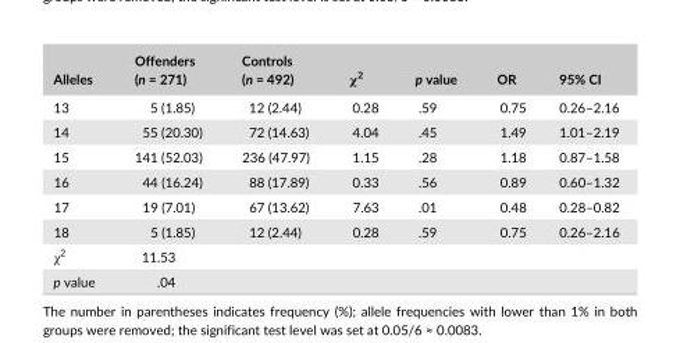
<table><thead><tr><td>Alleles</td><td>Offenders (n = 271)</td><td>Controls (n = 492)</td><td>χ<sup>2</sup></td><td>p value</td><td>OR</td><td>95% CI</td></tr></thead><tbody><tr><td>13</td><td>5 (1.85)</td><td>12 (2.44)</td><td>0.28</td><td>.59</td><td>0.75</td><td>0.26–2.16</td></tr><tr><td>14</td><td>55 (20.30)</td><td>72 (14.63)</td><td>4.04</td><td>.45</td><td>1.49</td><td>1.01–2.19</td></tr><tr><td>15</td><td>141 (52.03)</td><td>236 (47.97)</td><td>1.15</td><td>.28</td><td>1.18</td><td>0.87–1.58</td></tr><tr><td>16</td><td>44 (16.24)</td><td>88 (17.89)</td><td>0.33</td><td>.56</td><td>0.89</td><td>0.60–1.32</td></tr><tr><td>17</td><td>19 (7.01)</td><td>67 (13.62)</td><td>7.63</td><td>.01</td><td>0.48</td><td>0.28–0.82</td></tr><tr><td>18</td><td>5 (1.85)</td><td>12 (2.44)</td><td>0.28</td><td>.59</td><td>0.75</td><td>0.26–2.16</td></tr><tr><td>χ<sup>2</sup></td><td colspan="6">11.53</td></tr><tr><td>p value</td><td colspan="6">.04</td></tr></tbody></table>